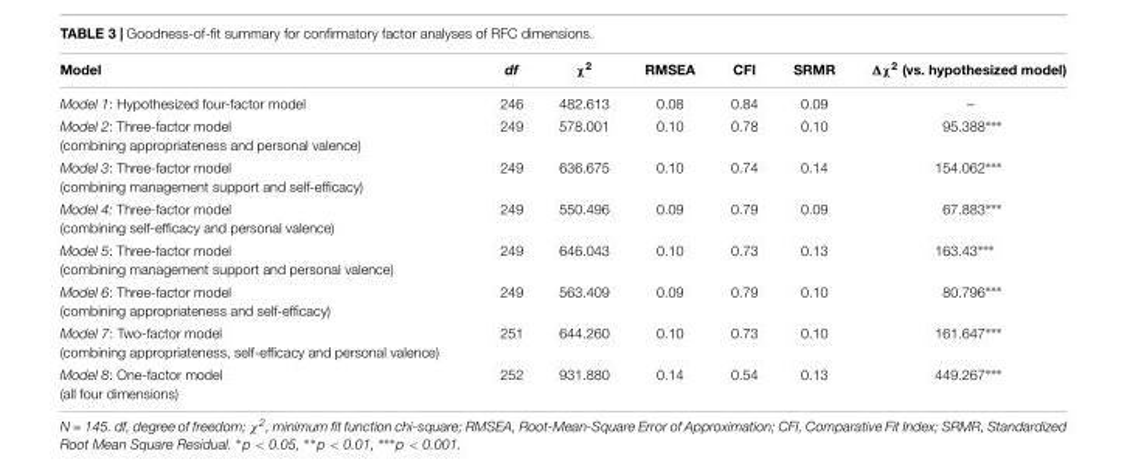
<table><thead><tr><td>Model</td><td>df</td><td>χ<sup>2</sup></td><td>RMSEA</td><td>CFI</td><td>SRMR</td><td>Δχ<sup>2</sup> (vs. hypothesized model)</td></tr></thead><tbody><tr><td>Model 1: Hypothesized four-factor model</td><td>246</td><td>482.613</td><td>0.08</td><td>0.84</td><td>0.09</td><td>–</td></tr><tr><td>Model 2: Three-factor model (combining appropriateness and personal valence)</td><td>249</td><td>578.001</td><td>0.10</td><td>0.78</td><td>0.10</td><td>95.388∗∗∗</td></tr><tr><td>Model 3: Three-factor model (combining management support and self-efficacy)</td><td>249</td><td>636.675</td><td>0.10</td><td>0.74</td><td>0.14</td><td>154.062∗∗∗</td></tr><tr><td>Model 4: Three-factor model (combining self-efficacy and personal valence)</td><td>249</td><td>550.496</td><td>0.09</td><td>0.79</td><td>0.09</td><td>67.883∗∗∗</td></tr><tr><td>Model 5: Three-factor model (combining management support and personal valence)</td><td>249</td><td>646.043</td><td>0.10</td><td>0.73</td><td>0.13</td><td>163.43∗∗∗</td></tr><tr><td>Model 6: Three-factor model (combining appropriateness and self-efficacy)</td><td>249</td><td>563.409</td><td>0.09</td><td>0.79</td><td>0.10</td><td>80.796∗∗∗</td></tr><tr><td>Model 7: Two-factor model (combining appropriateness, self-efficacy and personal valence)</td><td>251</td><td>644.260</td><td>0.10</td><td>0.73</td><td>0.10</td><td>161.647∗∗∗</td></tr><tr><td>Model 8: One-factor model (all four dimensions)</td><td>252</td><td>931.880</td><td>0.14</td><td>0.54</td><td>0.13</td><td>449.267∗∗∗</td></tr></tbody></table>